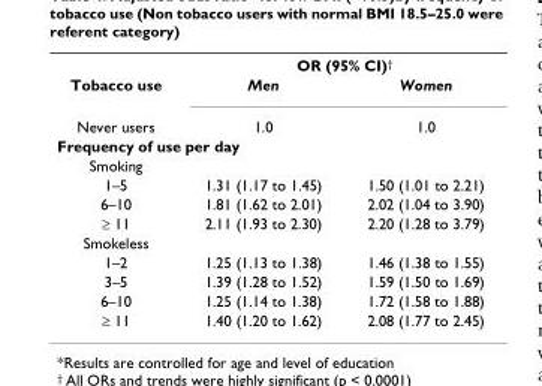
<table><thead><tr><td rowspan="2">Tobacco use</td><td colspan="2">OR (95% CI)†</td></tr><tr><td>Men</td><td>Women</td></tr></thead><tbody><tr><td>Never users</td><td>1.0</td><td>1.0</td></tr><tr><td colspan="3">Frequency of use per day</td></tr><tr><td colspan="3">Smoking</td></tr><tr><td>1–5</td><td>1.31 (1.17 to 1.45)</td><td>1.50 (1.01 to 2.21)</td></tr><tr><td>6–10</td><td>1.81 (1.62 to 2.01)</td><td>2.02 (1.04 to 3.90)</td></tr><tr><td>≥ 11</td><td>2.11 (1.93 to 2.30)</td><td>2.20 (1.28 to 3.79)</td></tr><tr><td colspan="3">Smokeless</td></tr><tr><td>1–2</td><td>1.25 (1.13 to 1.38)</td><td>1.46 (1.38 to 1.55)</td></tr><tr><td>3–5</td><td>1.39 (1.28 to 1.52)</td><td>1.59 (1.50 to 1.69)</td></tr><tr><td>6–10</td><td>1.25 (1.14 to 1.38)</td><td>1.72 (1.58 to 1.88)</td></tr><tr><td>≥ 11</td><td>1.40 (1.20 to 1.62)</td><td>2.08 (1.77 to 2.45)</td></tr></tbody></table>